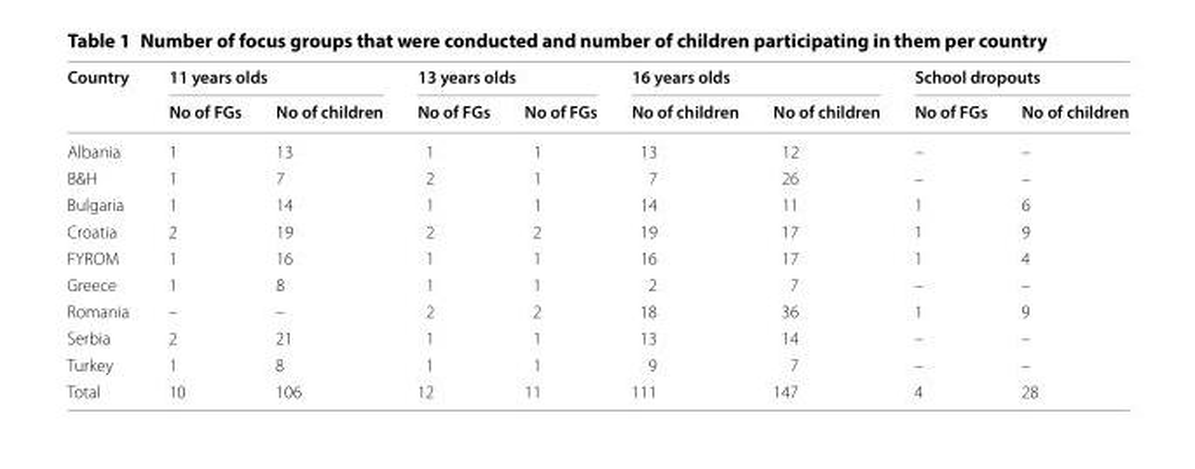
<table><thead><tr><td rowspan="2">Country</td><td colspan="2">11 years olds</td><td colspan="2">13 years olds</td><td colspan="2">16 years olds</td><td colspan="2">School dropouts</td></tr><tr><td>No of FGs</td><td>No of children</td><td>No of FGs</td><td>No of FGs</td><td>No of children</td><td>No of children</td><td>No of FGs</td><td>No of children</td></tr></thead><tbody><tr><td>Albania</td><td>1</td><td>13</td><td>1</td><td>1</td><td>13</td><td>12</td><td>–</td><td>–</td></tr><tr><td>B&amp;H</td><td>1</td><td>7</td><td>2</td><td>1</td><td>7</td><td>26</td><td>–</td><td>–</td></tr><tr><td>Bulgaria</td><td>1</td><td>14</td><td>1</td><td>1</td><td>14</td><td>11</td><td>1</td><td>6</td></tr><tr><td>Croatia</td><td>2</td><td>19</td><td>2</td><td>2</td><td>19</td><td>17</td><td>1</td><td>9</td></tr><tr><td>FYROM</td><td>1</td><td>16</td><td>1</td><td>1</td><td>16</td><td>17</td><td>1</td><td>4</td></tr><tr><td>Greece</td><td>1</td><td>8</td><td>1</td><td>1</td><td>2</td><td>7</td><td>–</td><td>–</td></tr><tr><td>Romania</td><td>–</td><td>–</td><td>2</td><td>2</td><td>18</td><td>36</td><td>1</td><td>9</td></tr><tr><td>Serbia</td><td>2</td><td>21</td><td>1</td><td>1</td><td>13</td><td>14</td><td>–</td><td>–</td></tr><tr><td>Turkey</td><td>1</td><td>8</td><td>1</td><td>1</td><td>9</td><td>7</td><td>–</td><td>–</td></tr><tr><td>Total</td><td>10</td><td>106</td><td>12</td><td>11</td><td>111</td><td>147</td><td>4</td><td>28</td></tr></tbody></table>